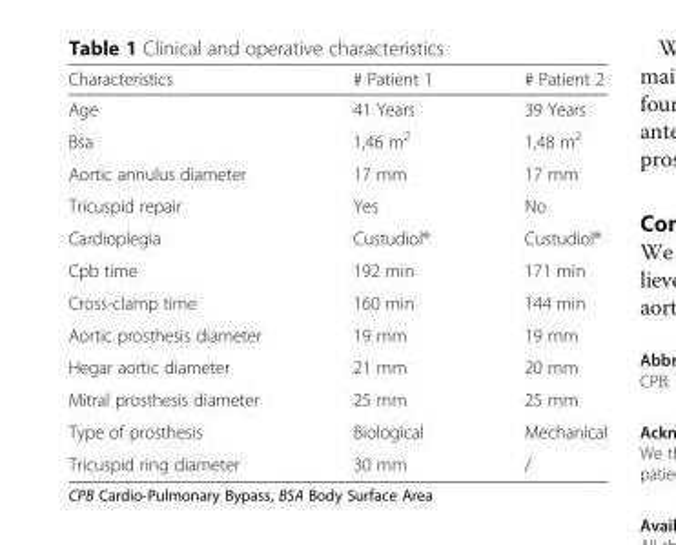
<table><thead><tr><td>Characteristics</td><td># Patient 1</td><td># Patient 2</td></tr></thead><tbody><tr><td>Age</td><td>41 Years</td><td>39 Years</td></tr><tr><td>Bsa</td><td>1,46 m<sup>2</sup></td><td>1,48 m<sup>2</sup></td></tr><tr><td>Aortic annulus diameter</td><td>17 mm</td><td>17 mm</td></tr><tr><td>Tricuspid repair</td><td>Yes</td><td>No</td></tr><tr><td>Cardioplegia</td><td>Custudiol®</td><td>Custudiol®</td></tr><tr><td>Cpb time</td><td>192 min</td><td>171 min</td></tr><tr><td>Cross-clamp time</td><td>160 min</td><td>144 min</td></tr><tr><td>Aortic prosthesis diameter</td><td>19 mm</td><td>19 mm</td></tr><tr><td>Hegar aortic diameter</td><td>21 mm</td><td>20 mm</td></tr><tr><td>Mitral prosthesis diameter</td><td>25 mm</td><td>25 mm</td></tr><tr><td>Type of prosthesis</td><td>Biological</td><td>Mechanical</td></tr><tr><td>Tricuspid ring diameter</td><td>30 mm</td><td>/</td></tr></tbody></table>